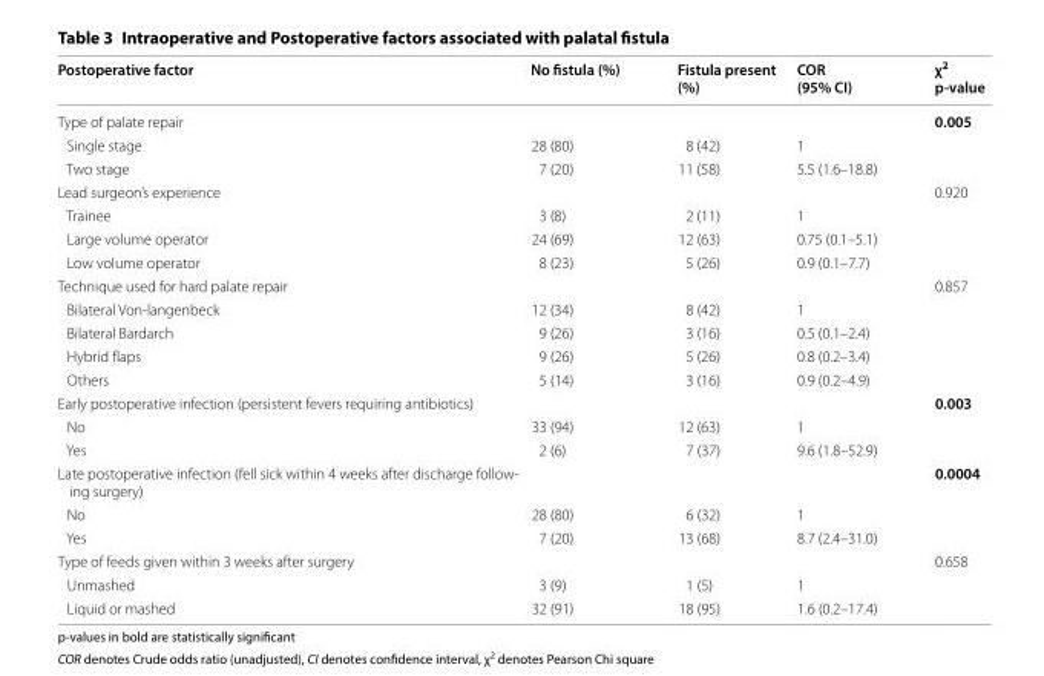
<table><thead><tr><td>Postoperative factor</td><td>No fistula (%)</td><td>Fistula present (%)</td><td>COR (95% CI)</td><td>χ<sup>2</sup> p-value</td></tr></thead><tbody><tr><td>Type of palate repair</td><td></td><td></td><td></td><td>0.005</td></tr><tr><td>Single stage</td><td>28 (80)</td><td>8 (42)</td><td>1</td><td></td></tr><tr><td>Two stage</td><td>7 (20)</td><td>11 (58)</td><td>5.5 (1.6–18.8)</td><td></td></tr><tr><td>Lead surgeon’s experience</td><td></td><td></td><td></td><td>0.920</td></tr><tr><td>Trainee</td><td>3 (8)</td><td>2 (11)</td><td>1</td><td></td></tr><tr><td>Large volume operator</td><td>24 (69)</td><td>12 (63)</td><td>0.75 (0.1–5.1)</td><td></td></tr><tr><td>Low volume operator</td><td>8 (23)</td><td>5 (26)</td><td>0.9 (0.1–7.7)</td><td></td></tr><tr><td>Technique used for hard palate repair</td><td></td><td></td><td></td><td>0.857</td></tr><tr><td>Bilateral Von-langenbeck</td><td>12 (34)</td><td>8 (42)</td><td>1</td><td></td></tr><tr><td>Bilateral Bardarch</td><td>9 (26)</td><td>3 (16)</td><td>0.5 (0.1–2.4)</td><td></td></tr><tr><td>Hybrid flaps</td><td>9 (26)</td><td>5 (26)</td><td>0.8 (0.2–3.4)</td><td></td></tr><tr><td>Others</td><td>5 (14)</td><td>3 (16)</td><td>0.9 (0.2–4.9)</td><td></td></tr><tr><td>Early postoperative infection (persistent fevers requiring antibiotics)</td><td></td><td></td><td></td><td>0.003</td></tr><tr><td>No</td><td>33 (94)</td><td>12 (63)</td><td>1</td><td></td></tr><tr><td>Yes</td><td>2 (6)</td><td>7 (37)</td><td>9.6 (1.8–52.9)</td><td></td></tr><tr><td>Late postoperative infection (fell sick within 4 weeks after discharge follow- ing surgery)</td><td></td><td></td><td></td><td>0.0004</td></tr><tr><td>No</td><td>28 (80)</td><td>6 (32)</td><td>1</td><td></td></tr><tr><td>Yes</td><td>7 (20)</td><td>13 (68)</td><td>8.7 (2.4–31.0)</td><td></td></tr><tr><td>Type of feeds given within 3 weeks after surgery</td><td></td><td></td><td></td><td>0.658</td></tr><tr><td>Unmashed</td><td>3 (9)</td><td>1 (5)</td><td>1</td><td></td></tr><tr><td>Liquid or mashed</td><td>32 (91)</td><td>18 (95)</td><td>1.6 (0.2–17.4)</td><td></td></tr></tbody></table>